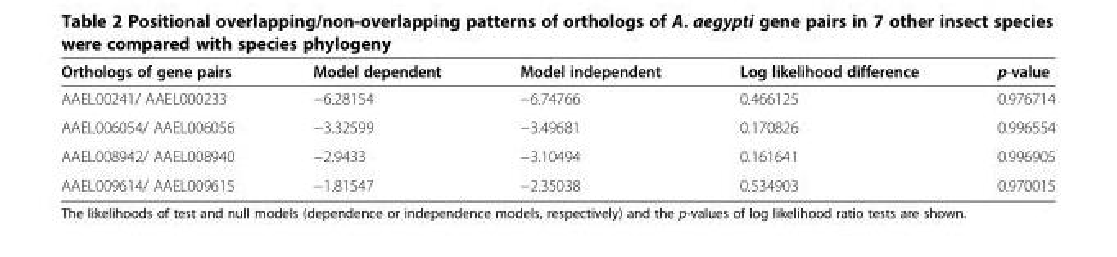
<table><thead><tr><td>Orthologs of gene pairs</td><td>Model dependent</td><td>Model independent</td><td>Log likelihood difference</td><td>p-value</td></tr></thead><tbody><tr><td>AAEL00241/ AAEL000233</td><td>−6.28154</td><td>−6.74766</td><td>0.466125</td><td>0.976714</td></tr><tr><td>AAEL006054/ AAEL006056</td><td>−3.32599</td><td>−3.49681</td><td>0.170826</td><td>0.996554</td></tr><tr><td>AAEL008942/ AAEL008940</td><td>−2.9433</td><td>−3.10494</td><td>0.161641</td><td>0.996905</td></tr><tr><td>AAEL009614/ AAEL009615</td><td>−1.81547</td><td>−2.35038</td><td>0.534903</td><td>0.970015</td></tr></tbody></table>